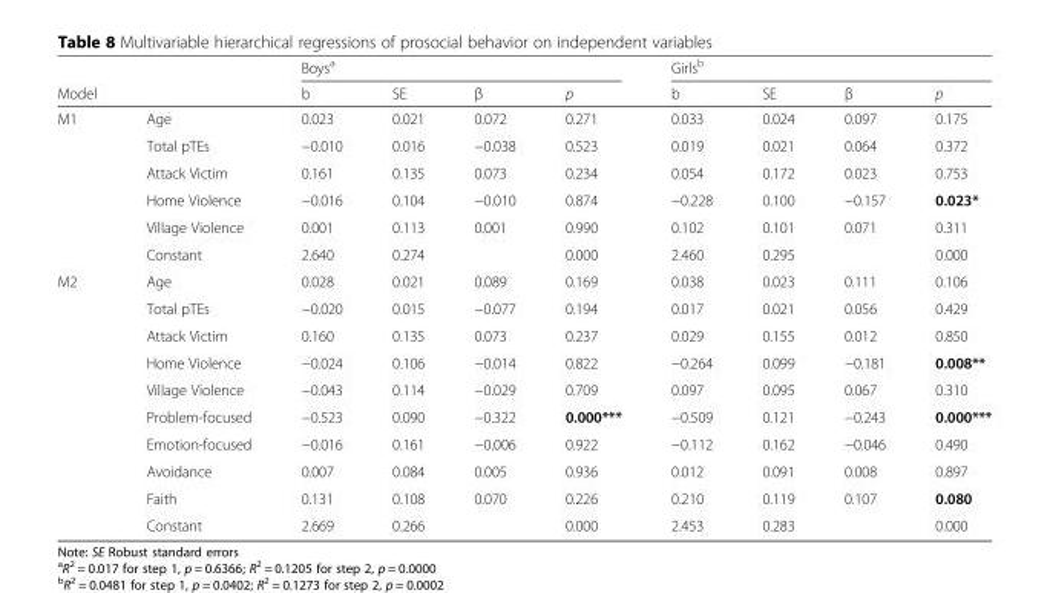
<table><thead><tr><td rowspan="2">Model</td><td rowspan="2"></td><td rowspan="2">Boys<sup>a</sup> b</td><td rowspan="2">SE</td><td rowspan="2">β</td><td rowspan="2">p</td><td rowspan="2">Girls<sup>b</sup> b</td><td rowspan="2">SE</td><td rowspan="2">β</td><td rowspan="2">p</td></tr><tr></tr></thead><tbody><tr><td rowspan="6">M1</td><td>Age</td><td>0.023</td><td>0.021</td><td>0.072</td><td>0.271</td><td>0.033</td><td>0.024</td><td>0.097</td><td>0.175</td></tr><tr><td>Total pTEs</td><td>−0.010</td><td>0.016</td><td>−0.038</td><td>0.523</td><td>0.019</td><td>0.021</td><td>0.064</td><td>0.372</td></tr><tr><td>Attack Victim</td><td>0.161</td><td>0.135</td><td>0.073</td><td>0.234</td><td>0.054</td><td>0.172</td><td>0.023</td><td>0.753</td></tr><tr><td>Home Violence</td><td>−0.016</td><td>0.104</td><td>−0.010</td><td>0.874</td><td>−0.228</td><td>0.100</td><td>−0.157</td><td>0.023*</td></tr><tr><td>Village Violence</td><td>0.001</td><td>0.113</td><td>0.001</td><td>0.990</td><td>0.102</td><td>0.101</td><td>0.071</td><td>0.311</td></tr><tr><td>Constant</td><td>2.640</td><td>0.274</td><td></td><td>0.000</td><td>2.460</td><td>0.295</td><td></td><td>0.000</td></tr><tr><td rowspan="10">M2</td><td>Age</td><td>0.028</td><td>0.021</td><td>0.089</td><td>0.169</td><td>0.038</td><td>0.023</td><td>0.111</td><td>0.106</td></tr><tr><td>Total pTEs</td><td>−0.020</td><td>0.015</td><td>−0.077</td><td>0.194</td><td>0.017</td><td>0.021</td><td>0.056</td><td>0.429</td></tr><tr><td>Attack Victim</td><td>0.160</td><td>0.135</td><td>0.073</td><td>0.237</td><td>0.029</td><td>0.155</td><td>0.012</td><td>0.850</td></tr><tr><td>Home Violence</td><td>−0.024</td><td>0.106</td><td>−0.014</td><td>0.822</td><td>−0.264</td><td>0.099</td><td>−0.181</td><td>0.008**</td></tr><tr><td>Village Violence</td><td>−0.043</td><td>0.114</td><td>−0.029</td><td>0.709</td><td>0.097</td><td>0.095</td><td>0.067</td><td>0.310</td></tr><tr><td>Problem-focused</td><td>−0.523</td><td>0.090</td><td>−0.322</td><td>0.000***</td><td>−0.509</td><td>0.121</td><td>−0.243</td><td>0.000***</td></tr><tr><td>Emotion-focused</td><td>−0.016</td><td>0.161</td><td>−0.006</td><td>0.922</td><td>−0.112</td><td>0.162</td><td>−0.046</td><td>0.490</td></tr><tr><td>Avoidance</td><td>0.007</td><td>0.084</td><td>0.005</td><td>0.936</td><td>0.012</td><td>0.091</td><td>0.008</td><td>0.897</td></tr><tr><td>Faith</td><td>0.131</td><td>0.108</td><td>0.070</td><td>0.226</td><td>0.210</td><td>0.119</td><td>0.107</td><td>0.080</td></tr><tr><td>Constant</td><td>2.669</td><td>0.266</td><td></td><td>0.000</td><td>2.453</td><td>0.283</td><td></td><td>0.000</td></tr></tbody></table>